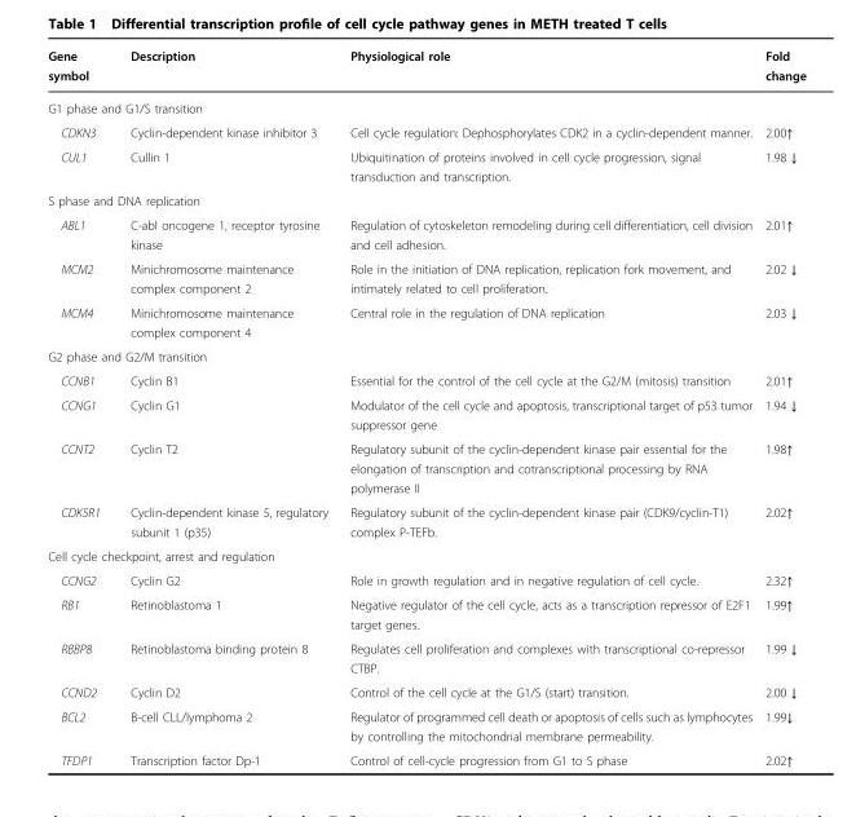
<table><thead><tr><td>Gene symbol</td><td>Description</td><td>Physiological role</td><td>Fold change</td></tr></thead><tbody><tr><td colspan="4">G1 phase and G1/S transition</td></tr><tr><td>CDKN3</td><td>Cyclin-dependent kinase inhibitor 3</td><td>Cell cycle regulation: Dephosphorylates CDK2 in a cyclin-dependent manner.</td><td>2.00↑</td></tr><tr><td>CUL1</td><td>Cullin 1</td><td>Ubiquitination of proteins involved in cell cycle progression, signal transduction and transcription.</td><td>1.98 ↓</td></tr><tr><td colspan="4">S phase and DNA replication</td></tr><tr><td>ABL1</td><td>C-abl oncogene 1, receptor tyrosine kinase</td><td>Regulation of cytoskeleton remodeling during cell differentiation, cell division and cell adhesion.</td><td>2.01↑</td></tr><tr><td>MCM2</td><td>Minichromosome maintenance complex component 2</td><td>Role in the initiation of DNA replication, replication fork movement, and intimately related to cell proliferation.</td><td>2.02 ↓</td></tr><tr><td>MCM4</td><td>Minichromosome maintenance complex component 4</td><td>Central role in the regulation of DNA replication</td><td>2.03 ↓</td></tr><tr><td colspan="4">G2 phase and G2/M transition</td></tr><tr><td>CCNB1</td><td>Cyclin B1</td><td>Essential for the control of the cell cycle at the G2/M (mitosis) transition</td><td>2.01↑</td></tr><tr><td>CCNG1</td><td>Cyclin G1</td><td>Modulator of the cell cycle and apoptosis, transcriptional target of p53 tumor suppressor gene</td><td>1.94 ↓</td></tr><tr><td>CCNT2</td><td>Cyclin T2</td><td>Regulatory subunit of the cyclin-dependent kinase pair essential for the elongation of transcription and cotranscriptional processing by RNA polymerase II</td><td>1.98↑</td></tr><tr><td>CDK5R1</td><td>Cyclin-dependent kinase 5, regulatory subunit 1 (p35)</td><td>Regulatory subunit of the cyclin-dependent kinase pair (CDK9/cyclin-T1) complex P-TEFb.</td><td>2.02↑</td></tr><tr><td colspan="4">Cell cycle checkpoint, arrest and regulation</td></tr><tr><td>CCNG2</td><td>Cyclin G2</td><td>Role in growth regulation and in negative regulation of cell cycle.</td><td>2.32↑</td></tr><tr><td>RB1</td><td>Retinoblastoma 1</td><td>Negative regulator of the cell cycle, acts as a transcription repressor of E2F1 target genes.</td><td>1.99↑</td></tr><tr><td>RBBP8</td><td>Retinoblastoma binding protein 8</td><td>Regulates cell proliferation and complexes with transcriptional co-repressor CTBP.</td><td>1.99 ↓</td></tr><tr><td>CCND2</td><td>Cyclin D2</td><td>Control of the cell cycle at the G1/S (start) transition.</td><td>2.00 ↓</td></tr><tr><td>BCL2</td><td>B-cell CLL/lymphoma 2</td><td>Regulator of programmed cell death or apoptosis of cells such as lymphocytes by controlling the mitochondrial membrane permeability.</td><td>1.99↓</td></tr><tr><td>TFDP1</td><td>Transcription factor Dp-1</td><td>Control of cell-cycle progression from G1 to S phase</td><td>2.02↑</td></tr></tbody></table>